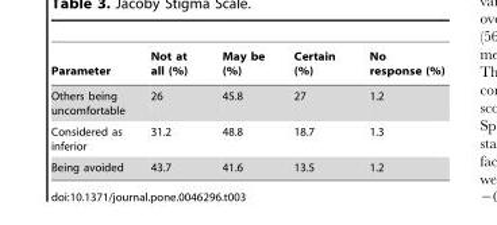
<table><thead><tr><td>Parameter</td><td>Not at all (%)</td><td>May be (%)</td><td>Certain (%)</td><td>No response (%)</td></tr></thead><tbody><tr><td>Others being uncomfortable</td><td>26</td><td>45.8</td><td>27</td><td>1.2</td></tr><tr><td>Considered as inferior</td><td>31.2</td><td>48.8</td><td>18.7</td><td>1.3</td></tr><tr><td>Being avoided</td><td>43.7</td><td>41.6</td><td>13.5</td><td>1.2</td></tr></tbody></table>